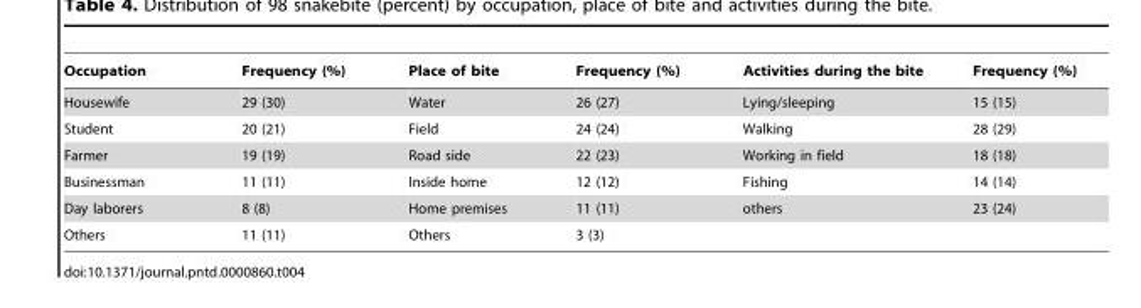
<table><thead><tr><td>Occupation</td><td>Frequency (%)</td><td>Place of bite</td><td>Frequency (%)</td><td>Activities during the bite</td><td>Frequency (%)</td></tr></thead><tbody><tr><td>Housewife</td><td>29 (30)</td><td>Water</td><td>26 (27)</td><td>Lying/sleeping</td><td>15 (15)</td></tr><tr><td>Student</td><td>20 (21)</td><td>Field</td><td>24 (24)</td><td>Walking</td><td>28 (29)</td></tr><tr><td>Farmer</td><td>19 (19)</td><td>Road side</td><td>22 (23)</td><td>Working in field</td><td>18 (18)</td></tr><tr><td>Businessman</td><td>11 (11)</td><td>Inside home</td><td>12 (12)</td><td>Fishing</td><td>14 (14)</td></tr><tr><td>Day laborers</td><td>8 (8)</td><td>Home premises</td><td>11 (11)</td><td>others</td><td>23 (24)</td></tr><tr><td>Others</td><td>11 (11)</td><td>Others</td><td>3 (3)</td><td></td><td></td></tr></tbody></table>